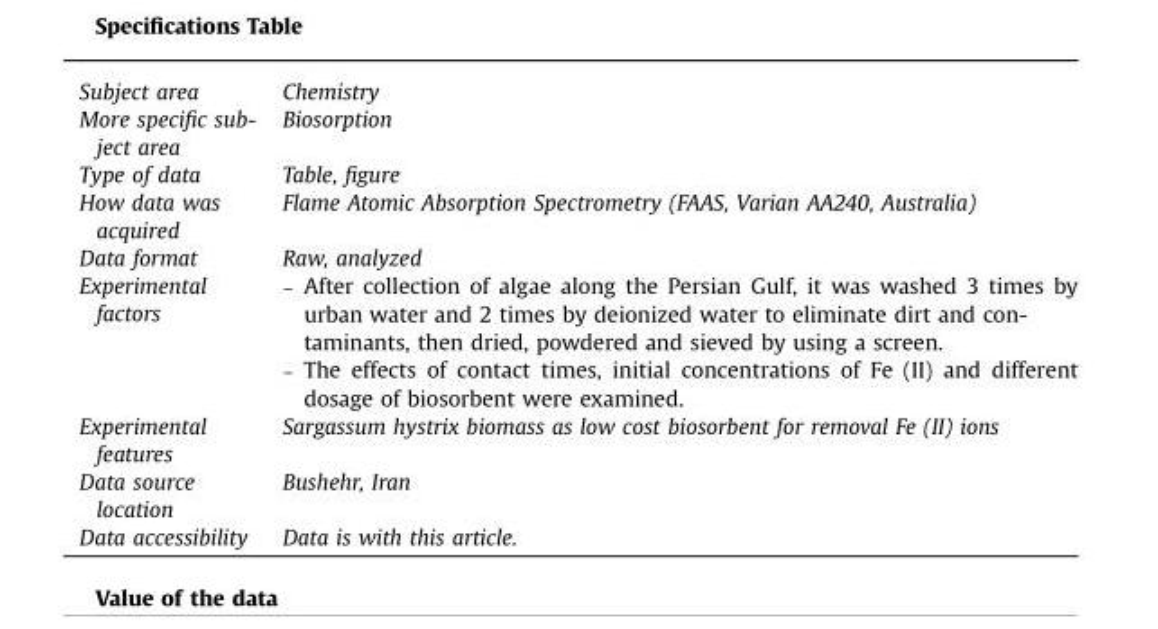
<table><tbody><tr><td>Subject area</td><td>Chemistry</td></tr><tr><td>More specific sub- ject area</td><td>Biosorption</td></tr><tr><td>Type of data</td><td>Table, figure</td></tr><tr><td>How data was acquired</td><td>Flame Atomic Absorption Spectrometry (FAAS, Varian AA240, Australia)</td></tr><tr><td>Data format</td><td>Raw, analyzed</td></tr><tr><td>Experimental factors</td><td>– After collection of algae along the Persian Gulf, it was washed 3 times by urban water and 2 times by deionized water to eliminate dirt and con- taminants, then dried, powdered and sieved by using a screen. – The effects of contact times, initial concentrations of Fe (II) and different dosage of biosorbent were examined.</td></tr><tr><td>Experimental features</td><td>Sargassum hystrix biomass as low cost biosorbent for removal Fe (II) ions</td></tr><tr><td>Data source location</td><td>Bushehr, Iran</td></tr><tr><td>Data accessibility</td><td>Data is with this article.</td></tr></tbody></table>